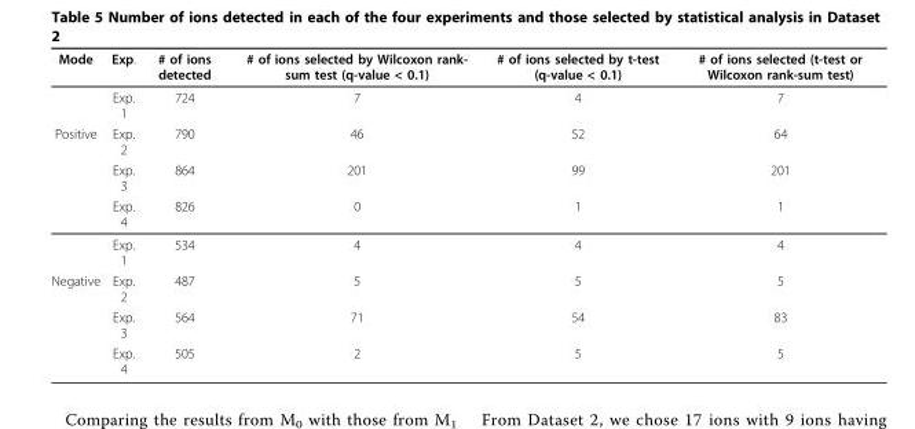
<table><thead><tr><td>Mode</td><td>Exp.</td><td># of ions detected</td><td># of ions selected by Wilcoxon rank- sum test (q-value &lt; 0.1)</td><td># of ions selected by t-test (q-value &lt; 0.1)</td><td># of ions selected (t-test or Wilcoxon rank-sum test)</td></tr></thead><tbody><tr><td></td><td>Exp. 1</td><td>724</td><td>7</td><td>4</td><td>7</td></tr><tr><td rowspan="4">Positive</td><td>Exp. 2</td><td>790</td><td>46</td><td>52</td><td>64</td></tr><tr><td>Exp. 3</td><td>864</td><td>201</td><td>99</td><td>201</td></tr><tr><td>Exp. 4</td><td>826</td><td>0</td><td>1</td><td>1</td></tr><tr><td>Exp. 1</td><td>534</td><td>4</td><td>4</td><td>4</td></tr><tr><td rowspan="3">Negative</td><td>Exp. 2</td><td>487</td><td>5</td><td>5</td><td>5</td></tr><tr><td>Exp. 3</td><td>564</td><td>71</td><td>54</td><td>83</td></tr><tr><td>Exp. 4</td><td>505</td><td>2</td><td>5</td><td>5</td></tr></tbody></table>